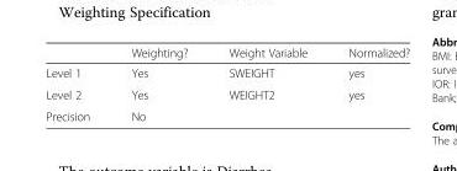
<table><thead><tr><td></td><td>Weighting?</td><td>Weight Variable</td><td>Normalized?</td></tr></thead><tbody><tr><td>Level 1</td><td>Yes</td><td>SWEIGHT</td><td>yes</td></tr><tr><td>Level 2</td><td>Yes</td><td>WEIGHT2</td><td>yes</td></tr><tr><td>Precision</td><td>No</td><td></td><td></td></tr></tbody></table>